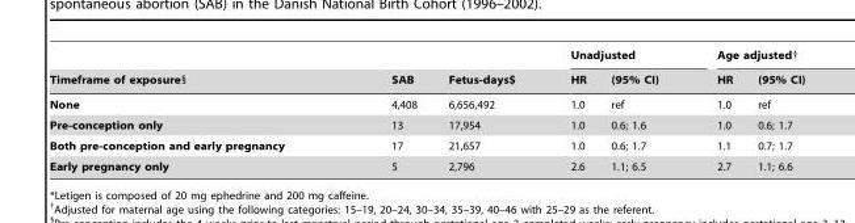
<table><thead><tr><td rowspan="2">Timeframe of exposure§</td><td rowspan="2">SAB</td><td rowspan="2">Fetus-days$</td><td colspan="2">Unadjusted</td><td colspan="2">Age adjusted†</td></tr><tr><td>HR</td><td>(95% CI)</td><td>HR</td><td>(95% CI)</td></tr></thead><tbody><tr><td>None</td><td>4,408</td><td>6,656,492</td><td>1.0</td><td>ref</td><td>1.0</td><td>ref</td></tr><tr><td>Pre-conception only</td><td>13</td><td>17,954</td><td>1.0</td><td>0.6; 1.6</td><td>1.0</td><td>0.6; 1.7</td></tr><tr><td>Both pre-conception and early pregnancy</td><td>17</td><td>21,657</td><td>1.0</td><td>0.6; 1.7</td><td>1.1</td><td>0.7; 1.7</td></tr><tr><td>Early pregnancy only</td><td>5</td><td>2,796</td><td>2.6</td><td>1.1; 6.5</td><td>2.7</td><td>1.1; 6.6</td></tr></tbody></table>